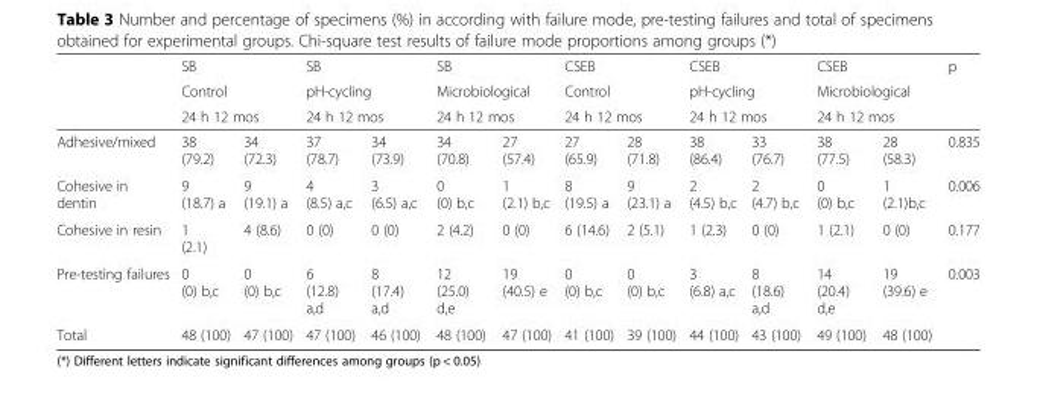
<table><thead><tr><td rowspan="4">Adhesive/mixed</td><td rowspan="3" colspan="2">SB Control 24 h 12 mos</td><td rowspan="3" colspan="2">SB pH-cycling 24 h 12 mos</td><td rowspan="3" colspan="2">SB Microbiological 24 h 12 mos</td><td rowspan="3" colspan="2">CSEB Control 24 h 12 mos</td><td rowspan="3" colspan="2">CSEB pH-cycling 24 h 12 mos</td><td rowspan="3" colspan="2">CSEB Microbiological 24 h 12 mos</td><td rowspan="4">p 0.835</td></tr><tr></tr><tr></tr><tr><td>38 (79.2)</td><td>34 (72.3)</td><td>37 (78.7)</td><td>34 (73.9)</td><td>34 (70.8)</td><td>27 (57.4)</td><td>27 (65.9)</td><td>28 (71.8)</td><td>38 (86.4)</td><td>33 (76.7)</td><td>38 (77.5)</td><td>28 (58.3)</td></tr></thead><tbody><tr><td>Cohesive in dentin</td><td>9 (18.7) a</td><td>9 (19.1) a</td><td>4 (8.5) a,c</td><td>3 (6.5) a,c</td><td>0 (0) b,c</td><td>1 (2.1) b,c</td><td>8 (19.5) a</td><td>9 (23.1) a</td><td>2 (4.5) b,c</td><td>2 (4.7) b,c</td><td>0 (0) b,c</td><td>1 (2.1)b,c</td><td>0.006</td></tr><tr><td>Cohesive in resin</td><td>1 (2.1)</td><td>4 (8.6)</td><td>0 (0)</td><td>0 (0)</td><td>2 (4.2)</td><td>0 (0)</td><td>6 (14.6)</td><td>2 (5.1)</td><td>1 (2.3)</td><td>0 (0)</td><td>1 (2.1)</td><td>0 (0)</td><td>0.177</td></tr><tr><td>Pre-testing failures</td><td>0 (0) b,c</td><td>0 (0) b,c</td><td>6 (12.8) a,d</td><td>8 (17.4) a,d</td><td>12 (25.0) d,e</td><td>19 (40.5) e</td><td>0 (0) b,c</td><td>0 (0) b,c</td><td>3 (6.8) a,c</td><td>8 (18.6) a,d</td><td>14 (20.4) d,e</td><td>19 (39.6) e</td><td>0.003</td></tr><tr><td>Total</td><td>48 (100)</td><td>47 (100)</td><td>47 (100)</td><td>46 (100)</td><td>48 (100)</td><td>47 (100)</td><td>41 (100)</td><td>39 (100)</td><td>44 (100)</td><td>43 (100)</td><td>49 (100)</td><td>48 (100)</td><td></td></tr></tbody></table>